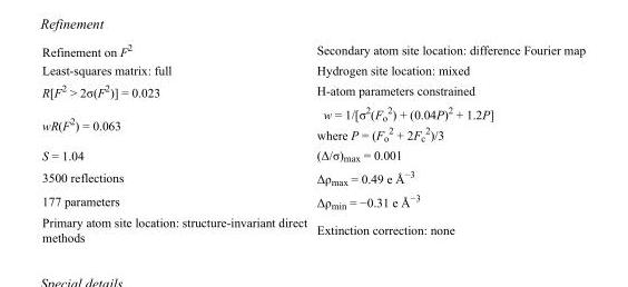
<table><tbody><tr><td>Refinement on F<sup>2</sup></td><td>Secondary atom site location: difference Fourier map</td></tr><tr><td>Least-squares matrix: full</td><td>Hydrogen site location: mixed</td></tr><tr><td>R[F<sup>2</sup> &gt; 2σ(F<sup>2</sup>)] = 0.023</td><td>H-atom parameters constrained</td></tr><tr><td>wR(F<sup>2</sup>) = 0.063</td><td>w = 1/[σ<sup>2</sup>(F<sub>o</sub> <sup>2</sup>) + (0.04P)<sup>2</sup> + 1.2P] where P = (F<sub>o</sub> <sup>2</sup> + 2F<sub>c</sub> <sup>2</sup>)/3</td></tr><tr><td>S = 1.04</td><td>(Δ/σ)<sub>max</sub> = 0.001</td></tr><tr><td>3500 reflections</td><td>Δρ<sub>max</sub> = 0.49 e Å<sup>−3</sup></td></tr><tr><td>177 parameters</td><td>Δρ<sub>min</sub> = −0.31 e Å<sup>−3</sup></td></tr><tr><td>Primary atom site location: structure-invariant direct methods</td><td>Extinction correction: none</td></tr></tbody></table>